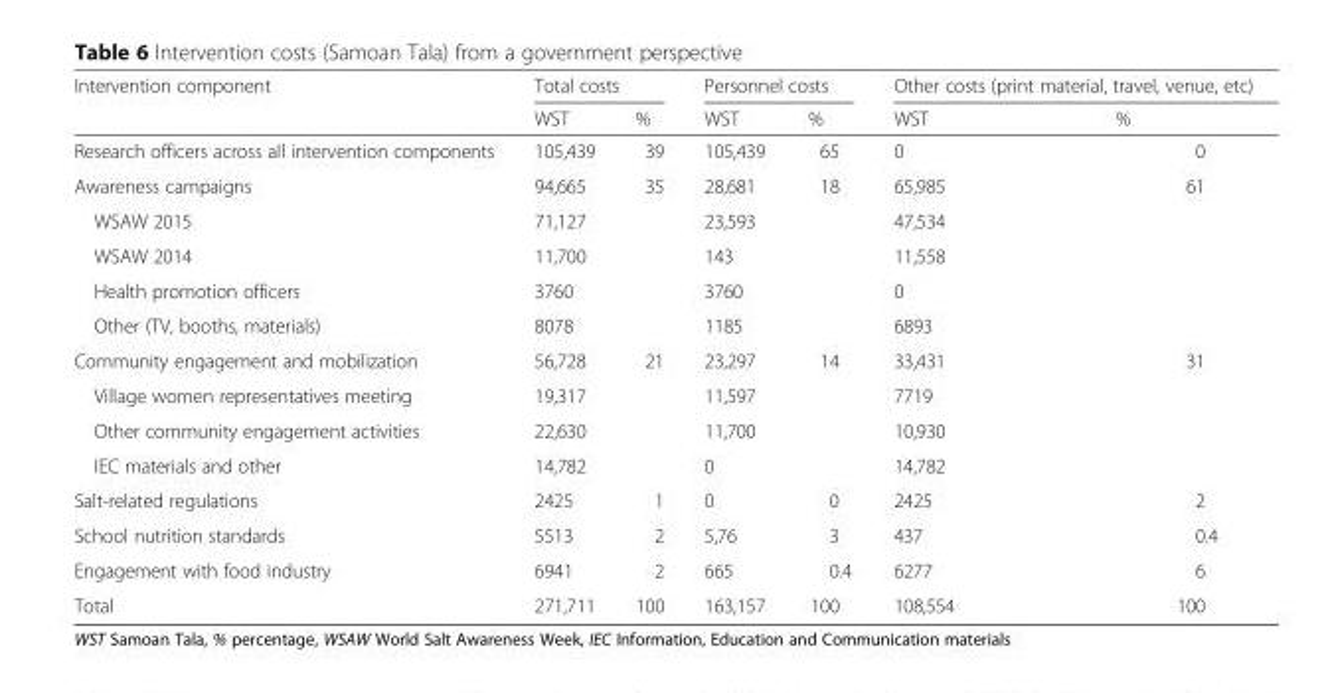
<table><thead><tr><td rowspan="2">Intervention component</td><td colspan="2">Total costs</td><td colspan="2">Personnel costs</td><td colspan="2">Other costs (print material, travel, venue, etc)</td></tr><tr><td>WST</td><td>%</td><td>WST</td><td>%</td><td>WST</td><td>%</td></tr></thead><tbody><tr><td>Research officers across all intervention components</td><td>105,439</td><td>39</td><td>105,439</td><td>65</td><td>0</td><td>0</td></tr><tr><td>Awareness campaigns</td><td>94,665</td><td>35</td><td>28,681</td><td>18</td><td>65,985</td><td>61</td></tr><tr><td>WSAW 2015</td><td>71,127</td><td></td><td>23,593</td><td></td><td>47,534</td><td></td></tr><tr><td>WSAW 2014</td><td>11,700</td><td></td><td>143</td><td></td><td>11,558</td><td></td></tr><tr><td>Health promotion officers</td><td>3760</td><td></td><td>3760</td><td></td><td>0</td><td></td></tr><tr><td>Other (TV, booths, materials)</td><td>8078</td><td></td><td>1185</td><td></td><td>6893</td><td></td></tr><tr><td>Community engagement and mobilization</td><td>56,728</td><td>21</td><td>23,297</td><td>14</td><td>33,431</td><td>31</td></tr><tr><td>Village women representatives meeting</td><td>19,317</td><td></td><td>11,597</td><td></td><td>7719</td><td></td></tr><tr><td>Other community engagement activities</td><td>22,630</td><td></td><td>11,700</td><td></td><td>10,930</td><td></td></tr><tr><td>IEC materials and other</td><td>14,782</td><td></td><td>0</td><td></td><td>14,782</td><td></td></tr><tr><td>Salt-related regulations</td><td>2425</td><td>1</td><td>0</td><td>0</td><td>2425</td><td>2</td></tr><tr><td>School nutrition standards</td><td>5513</td><td>2</td><td>5,76</td><td>3</td><td>437</td><td>0.4</td></tr><tr><td>Engagement with food industry</td><td>6941</td><td>2</td><td>665</td><td>0.4</td><td>6277</td><td>6</td></tr><tr><td>Total</td><td>271,711</td><td>100</td><td>163,157</td><td>100</td><td>108,554</td><td>100</td></tr></tbody></table>